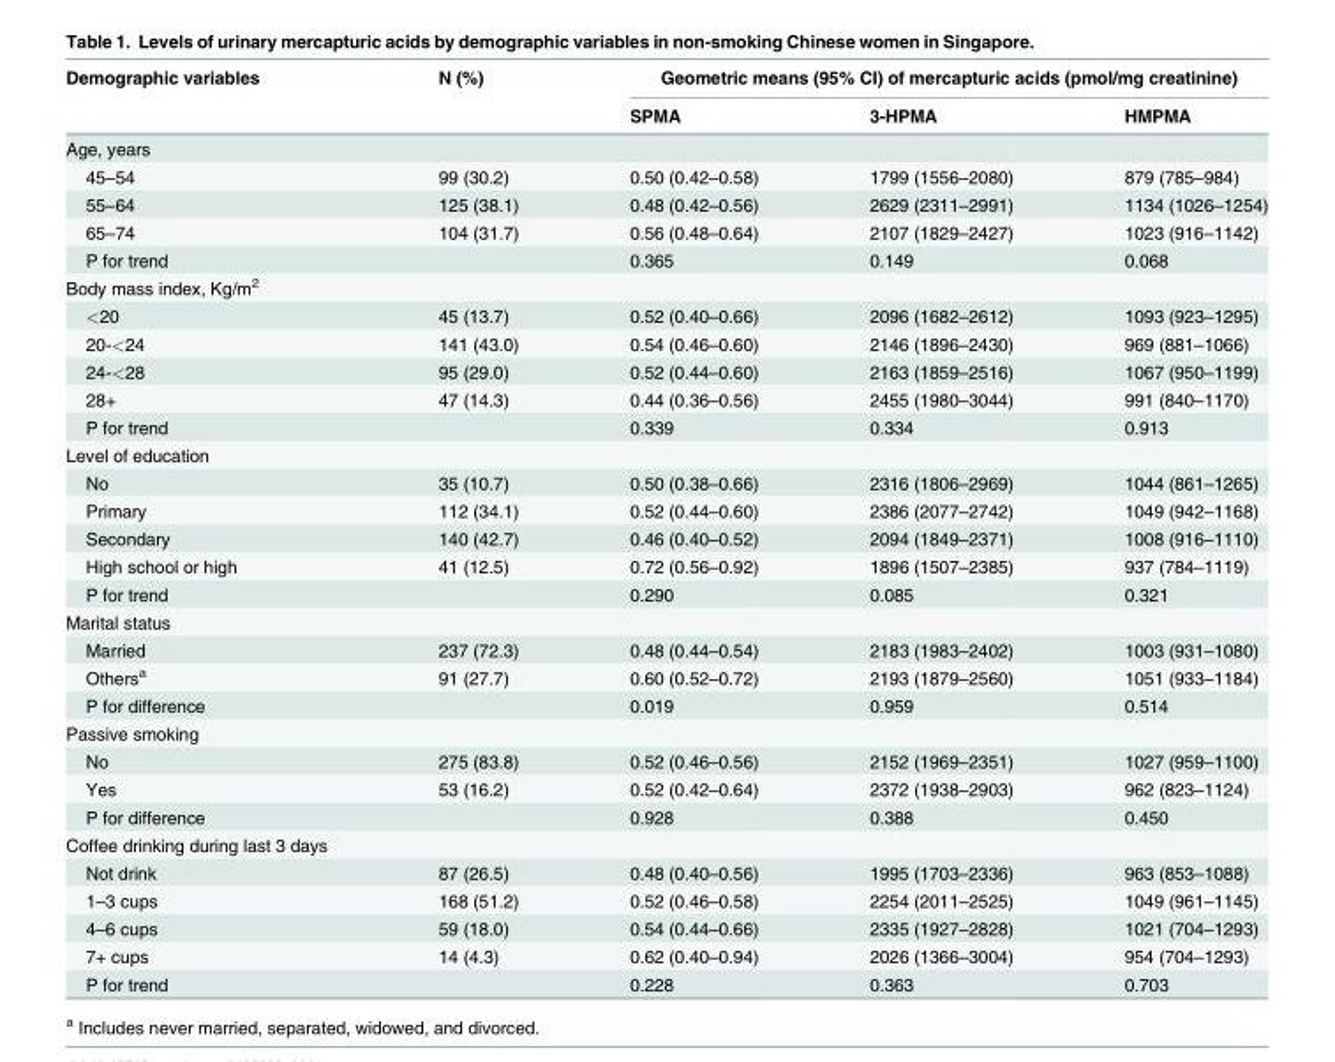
<table><thead><tr><td rowspan="2">Demographic variables</td><td rowspan="2">N (%)</td><td colspan="3">Geometric means (95% CI) of mercapturic acids (pmol/mg creatinine)</td></tr><tr><td>SPMA</td><td>3-HPMA</td><td>HMPMA</td></tr></thead><tbody><tr><td colspan="5">Age, years</td></tr><tr><td>45–54</td><td>99 (30.2)</td><td>0.50 (0.42–0.58)</td><td>1799 (1556–2080)</td><td>879 (785–984)</td></tr><tr><td>55–64</td><td>125 (38.1)</td><td>0.48 (0.42–0.56)</td><td>2629 (2311–2991)</td><td>1134 (1026–1254)</td></tr><tr><td>65–74</td><td>104 (31.7)</td><td>0.56 (0.48–0.64)</td><td>2107 (1829–2427)</td><td>1023 (916–1142)</td></tr><tr><td>P for trend</td><td></td><td>0.365</td><td>0.149</td><td>0.068</td></tr><tr><td colspan="5">Body mass index, Kg/m<sup>2</sup></td></tr><tr><td>&lt;20</td><td>45 (13.7)</td><td>0.52 (0.40–0.66)</td><td>2096 (1682–2612)</td><td>1093 (923–1295)</td></tr><tr><td>20-&lt;24</td><td>141 (43.0)</td><td>0.54 (0.46–0.60)</td><td>2146 (1896–2430)</td><td>969 (881–1066)</td></tr><tr><td>24-&lt;28</td><td>95 (29.0)</td><td>0.52 (0.44–0.60)</td><td>2163 (1859–2516)</td><td>1067 (950–1199)</td></tr><tr><td>28+</td><td>47 (14.3)</td><td>0.44 (0.36–0.56)</td><td>2455 (1980–3044)</td><td>991 (840–1170)</td></tr><tr><td>P for trend</td><td></td><td>0.339</td><td>0.334</td><td>0.913</td></tr><tr><td colspan="5">Level of education</td></tr><tr><td>No</td><td>35 (10.7)</td><td>0.50 (0.38–0.66)</td><td>2316 (1806–2969)</td><td>1044 (861–1265)</td></tr><tr><td>Primary</td><td>112 (34.1)</td><td>0.52 (0.44–0.60)</td><td>2386 (2077–2742)</td><td>1049 (942–1168)</td></tr><tr><td>Secondary</td><td>140 (42.7)</td><td>0.46 (0.40–0.52)</td><td>2094 (1849–2371)</td><td>1008 (916–1110)</td></tr><tr><td>High school or high</td><td>41 (12.5)</td><td>0.72 (0.56–0.92)</td><td>1896 (1507–2385)</td><td>937 (784–1119)</td></tr><tr><td>P for trend</td><td></td><td>0.290</td><td>0.085</td><td>0.321</td></tr><tr><td colspan="5">Marital status</td></tr><tr><td>Married</td><td>237 (72.3)</td><td>0.48 (0.44–0.54)</td><td>2183 (1983–2402)</td><td>1003 (931–1080)</td></tr><tr><td>Others<sup>a</sup></td><td>91 (27.7)</td><td>0.60 (0.52–0.72)</td><td>2193 (1879–2560)</td><td>1051 (933–1184)</td></tr><tr><td>P for difference</td><td></td><td>0.019</td><td>0.959</td><td>0.514</td></tr><tr><td colspan="5">Passive smoking</td></tr><tr><td>No</td><td>275 (83.8)</td><td>0.52 (0.46–0.56)</td><td>2152 (1969–2351)</td><td>1027 (959–1100)</td></tr><tr><td>Yes</td><td>53 (16.2)</td><td>0.52 (0.42–0.64)</td><td>2372 (1938–2903)</td><td>962 (823–1124)</td></tr><tr><td>P for difference</td><td></td><td>0.928</td><td>0.388</td><td>0.450</td></tr><tr><td colspan="5">Coffee drinking during last 3 days</td></tr><tr><td>Not drink</td><td>87 (26.5)</td><td>0.48 (0.40–0.56)</td><td>1995 (1703–2336)</td><td>963 (853–1088)</td></tr><tr><td>1–3 cups</td><td>168 (51.2)</td><td>0.52 (0.46–0.58)</td><td>2254 (2011–2525)</td><td>1049 (961–1145)</td></tr><tr><td>4–6 cups</td><td>59 (18.0)</td><td>0.54 (0.44–0.66)</td><td>2335 (1927–2828)</td><td>1021 (704–1293)</td></tr><tr><td>7+ cups</td><td>14 (4.3)</td><td>0.62 (0.40–0.94)</td><td>2026 (1366–3004)</td><td>954 (704–1293)</td></tr><tr><td>P for trend</td><td></td><td>0.228</td><td>0.363</td><td>0.703</td></tr></tbody></table>